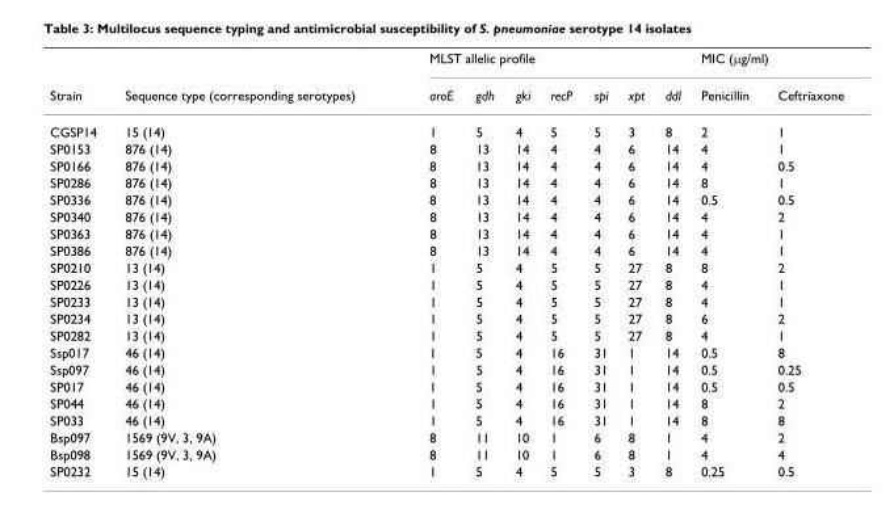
<table><thead><tr><td rowspan="2">Strain</td><td rowspan="2">Sequence type (corresponding serotypes)</td><td colspan="7">MLST allelic profile</td><td colspan="2">MIC (μg/ml)</td></tr><tr><td>aroE</td><td>gdh</td><td>gki</td><td>recP</td><td>spi</td><td>xpt</td><td>ddl</td><td>Penicillin</td><td>Ceftriaxone</td></tr></thead><tbody><tr><td>CGSP14</td><td>15 (14)</td><td>1</td><td>5</td><td>4</td><td>5</td><td>5</td><td>3</td><td>8</td><td>2</td><td>1</td></tr><tr><td>SP0153</td><td>876 (14)</td><td>8</td><td>13</td><td>14</td><td>4</td><td>4</td><td>6</td><td>14</td><td>4</td><td>1</td></tr><tr><td>SP0166</td><td>876 (14)</td><td>8</td><td>13</td><td>14</td><td>4</td><td>4</td><td>6</td><td>14</td><td>4</td><td>0.5</td></tr><tr><td>SP0286</td><td>876 (14)</td><td>8</td><td>13</td><td>14</td><td>4</td><td>4</td><td>6</td><td>14</td><td>8</td><td>1</td></tr><tr><td>SP0336</td><td>876 (14)</td><td>8</td><td>13</td><td>14</td><td>4</td><td>4</td><td>6</td><td>14</td><td>0.5</td><td>0.5</td></tr><tr><td>SP0340</td><td>876 (14)</td><td>8</td><td>13</td><td>14</td><td>4</td><td>4</td><td>6</td><td>14</td><td>4</td><td>2</td></tr><tr><td>SP0363</td><td>876 (14)</td><td>8</td><td>13</td><td>14</td><td>4</td><td>4</td><td>6</td><td>14</td><td>4</td><td>1</td></tr><tr><td>SP0386</td><td>876 (14)</td><td>8</td><td>13</td><td>14</td><td>4</td><td>4</td><td>6</td><td>14</td><td>4</td><td>1</td></tr><tr><td>SP0210</td><td>13 (14)</td><td>1</td><td>5</td><td>4</td><td>5</td><td>5</td><td>27</td><td>8</td><td>8</td><td>2</td></tr><tr><td>SP0226</td><td>13 (14)</td><td>1</td><td>5</td><td>4</td><td>5</td><td>5</td><td>27</td><td>8</td><td>4</td><td>1</td></tr><tr><td>SP0233</td><td>13 (14)</td><td>1</td><td>5</td><td>4</td><td>5</td><td>5</td><td>27</td><td>8</td><td>4</td><td>1</td></tr><tr><td>SP0234</td><td>13 (14)</td><td>1</td><td>5</td><td>4</td><td>5</td><td>5</td><td>27</td><td>8</td><td>6</td><td>2</td></tr><tr><td>SP0282</td><td>13 (14)</td><td>1</td><td>5</td><td>4</td><td>5</td><td>5</td><td>27</td><td>8</td><td>4</td><td>1</td></tr><tr><td>Ssp017</td><td>46 (14)</td><td>1</td><td>5</td><td>4</td><td>16</td><td>31</td><td>1</td><td>14</td><td>0.5</td><td>8</td></tr><tr><td>Ssp097</td><td>46 (14)</td><td>1</td><td>5</td><td>4</td><td>16</td><td>31</td><td>1</td><td>14</td><td>0.5</td><td>0.25</td></tr><tr><td>SP017</td><td>46 (14)</td><td>1</td><td>5</td><td>4</td><td>16</td><td>31</td><td>1</td><td>14</td><td>0.5</td><td>0.5</td></tr><tr><td>SP044</td><td>46 (14)</td><td>1</td><td>5</td><td>4</td><td>16</td><td>31</td><td>1</td><td>14</td><td>8</td><td>2</td></tr><tr><td>SP033</td><td>46 (14)</td><td>1</td><td>5</td><td>4</td><td>16</td><td>31</td><td>1</td><td>14</td><td>8</td><td>8</td></tr><tr><td>Bsp097</td><td>1569 (9V, 3, 9A)</td><td>8</td><td>11</td><td>10</td><td>1</td><td>6</td><td>8</td><td>1</td><td>4</td><td>2</td></tr><tr><td>Bsp098</td><td>1569 (9V, 3, 9A)</td><td>8</td><td>11</td><td>10</td><td>1</td><td>6</td><td>8</td><td>1</td><td>4</td><td>4</td></tr><tr><td>SP0232</td><td>15 (14)</td><td>1</td><td>5</td><td>4</td><td>5</td><td>5</td><td>3</td><td>8</td><td>0.25</td><td>0.5</td></tr></tbody></table>